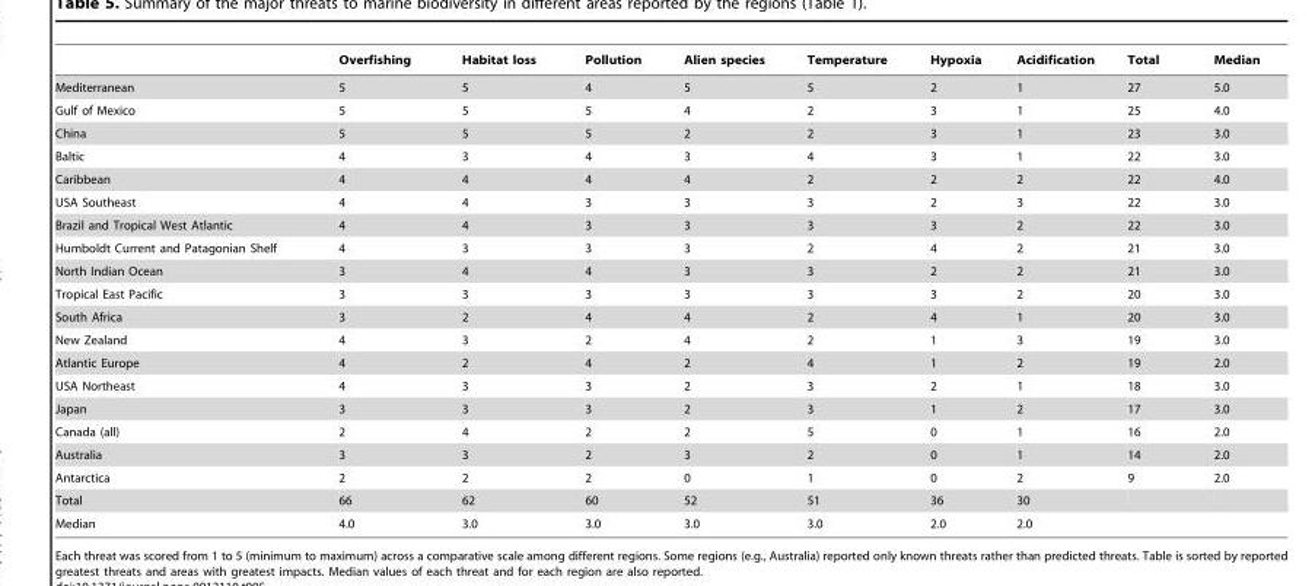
<table><thead><tr><td></td><td>Overfishing</td><td>Habitat loss</td><td>Pollution</td><td>Alien species</td><td>Temperature</td><td>Hypoxia</td><td>Acidification</td><td>Total</td><td>Median</td></tr></thead><tbody><tr><td>Mediterranean</td><td>5</td><td>5</td><td>4</td><td>5</td><td>5</td><td>2</td><td>1</td><td>27</td><td>5.0</td></tr><tr><td>Gulf of Mexico</td><td>5</td><td>5</td><td>5</td><td>4</td><td>2</td><td>3</td><td>1</td><td>25</td><td>4.0</td></tr><tr><td>China</td><td>5</td><td>5</td><td>5</td><td>2</td><td>2</td><td>3</td><td>1</td><td>23</td><td>3.0</td></tr><tr><td>Baltic</td><td>4</td><td>3</td><td>4</td><td>3</td><td>4</td><td>3</td><td>1</td><td>22</td><td>3.0</td></tr><tr><td>Caribbean</td><td>4</td><td>4</td><td>4</td><td>4</td><td>2</td><td>2</td><td>2</td><td>22</td><td>4.0</td></tr><tr><td>USA Southeast</td><td>4</td><td>4</td><td>3</td><td>3</td><td>3</td><td>2</td><td>3</td><td>22</td><td>3.0</td></tr><tr><td>Brazil and Tropical West Atlantic</td><td>4</td><td>4</td><td>3</td><td>3</td><td>3</td><td>3</td><td>2</td><td>22</td><td>3.0</td></tr><tr><td>Humboldt Current and Patagonian Shelf</td><td>4</td><td>3</td><td>3</td><td>3</td><td>2</td><td>4</td><td>2</td><td>21</td><td>3.0</td></tr><tr><td>North Indian Ocean</td><td>3</td><td>4</td><td>4</td><td>3</td><td>3</td><td>2</td><td>2</td><td>21</td><td>3.0</td></tr><tr><td>Tropical East Pacific</td><td>3</td><td>3</td><td>3</td><td>3</td><td>3</td><td>3</td><td>2</td><td>20</td><td>3.0</td></tr><tr><td>South Africa</td><td>3</td><td>2</td><td>4</td><td>4</td><td>2</td><td>4</td><td>1</td><td>20</td><td>3.0</td></tr><tr><td>New Zealand</td><td>4</td><td>3</td><td>2</td><td>4</td><td>2</td><td>1</td><td>3</td><td>19</td><td>3.0</td></tr><tr><td>Atlantic Europe</td><td>4</td><td>2</td><td>4</td><td>2</td><td>4</td><td>1</td><td>2</td><td>19</td><td>2.0</td></tr><tr><td>USA Northeast</td><td>4</td><td>3</td><td>3</td><td>2</td><td>3</td><td>2</td><td>1</td><td>18</td><td>3.0</td></tr><tr><td>Japan</td><td>3</td><td>3</td><td>3</td><td>2</td><td>3</td><td>1</td><td>2</td><td>17</td><td>3.0</td></tr><tr><td>Canada (all)</td><td>2</td><td>4</td><td>2</td><td>2</td><td>5</td><td>0</td><td>1</td><td>16</td><td>2.0</td></tr><tr><td>Australia</td><td>3</td><td>3</td><td>2</td><td>3</td><td>2</td><td>0</td><td>1</td><td>14</td><td>2.0</td></tr><tr><td>Antarctica</td><td>2</td><td>2</td><td>2</td><td>0</td><td>1</td><td>0</td><td>2</td><td>9</td><td>2.0</td></tr><tr><td>Total</td><td>66</td><td>62</td><td>60</td><td>52</td><td>51</td><td>36</td><td>30</td><td></td><td></td></tr><tr><td>Median</td><td>4.0</td><td>3.0</td><td>3.0</td><td>3.0</td><td>3.0</td><td>2.0</td><td>2.0</td><td></td><td></td></tr></tbody></table>